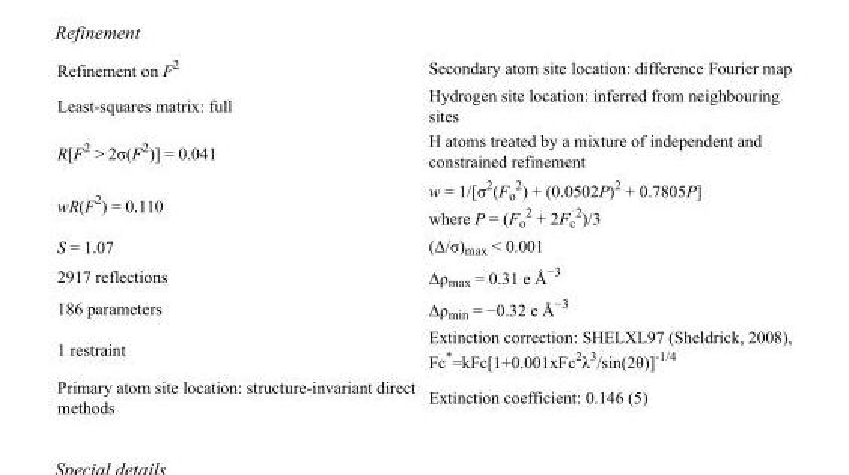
<table><tbody><tr><td>Refinement on F<sup>2</sup></td><td>Secondary atom site location: difference Fourier map</td></tr><tr><td>Least-squares matrix: full</td><td>Hydrogen site location: inferred from neighbouring sites</td></tr><tr><td>R[F<sup>2</sup> &gt; 2σ(F<sup>2</sup>)] = 0.041</td><td>H atoms treated by a mixture of independent and constrained refinement</td></tr><tr><td>wR(F<sup>2</sup>) = 0.110</td><td>w = 1/[σ<sup>2</sup>(F<sub>o</sub> <sup>2</sup>) + (0.0502P)<sup>2</sup> + 0.7805P] where P = (F<sub>o</sub> <sup>2</sup> + 2F<sub>c</sub> <sup>2</sup>)/3</td></tr><tr><td>S = 1.07</td><td>(Δ/σ)<sub>max</sub> &lt; 0.001</td></tr><tr><td>2917 reflections</td><td>Δρ<sub>max</sub> = 0.31 e Å<sup>−3</sup></td></tr><tr><td>186 parameters</td><td>Δρ<sub>min</sub> = −0.32 e Å<sup>−3</sup></td></tr><tr><td>1 restraint</td><td>Extinction correction: SHELXL97 (Sheldrick, 2008), Fc*=kFc[1+0.001xFc<sup>2</sup>λ<sup>3</sup>/sin(2θ)]<sup>-1/4</sup></td></tr><tr><td>Primary atom site location: structure-invariant direct methods</td><td>Extinction coefficient: 0.146 (5)</td></tr></tbody></table>